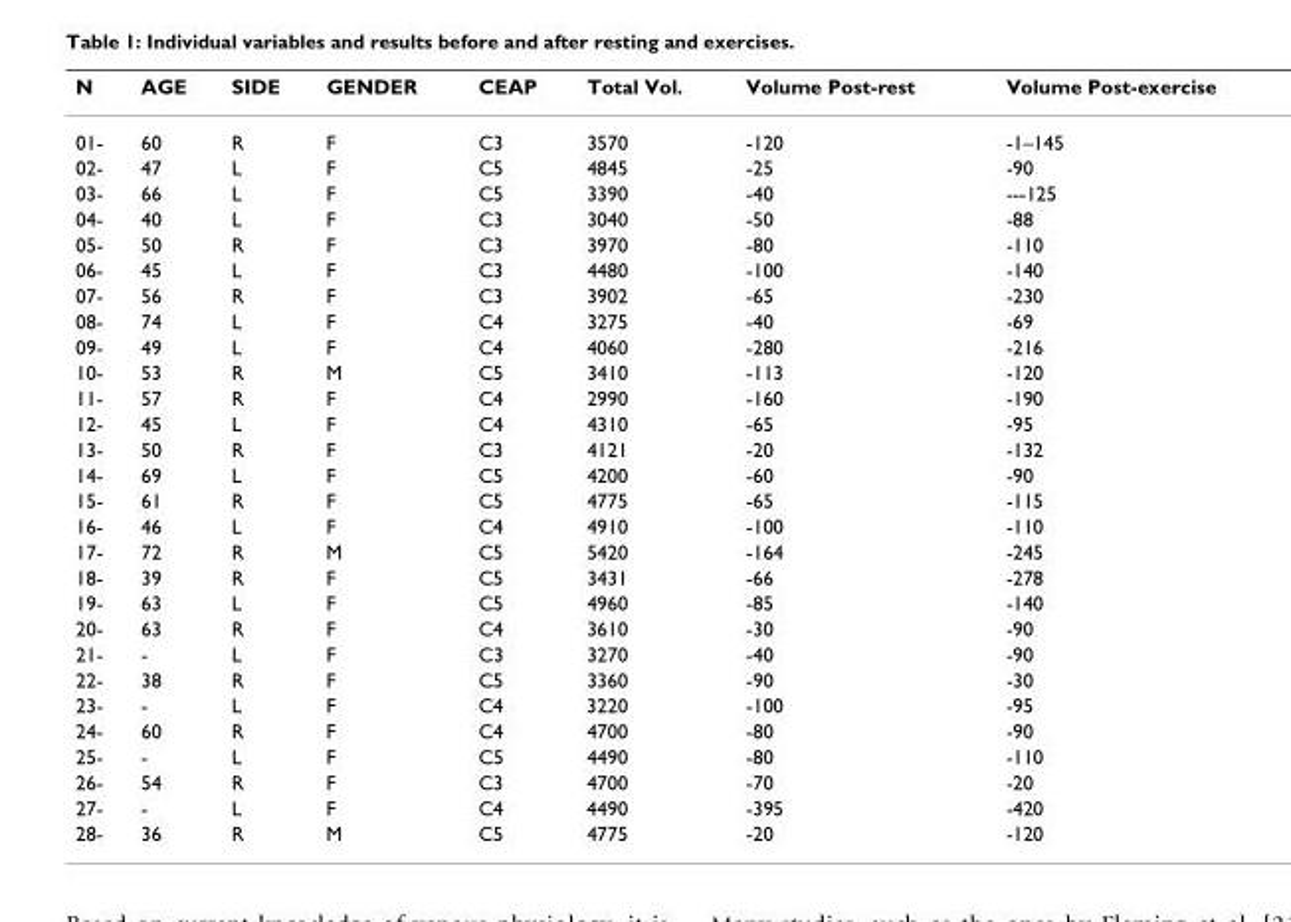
<table><thead><tr><td>N</td><td>AGE</td><td>SIDE</td><td>GENDER</td><td>CEAP</td><td>Total Vol.</td><td>Volume Post-rest</td><td>Volume Post-exercise</td></tr></thead><tbody><tr><td>01-</td><td>60</td><td>R</td><td>F</td><td>C3</td><td>3570</td><td>-120</td><td>-1–145</td></tr><tr><td>02-</td><td>47</td><td>L</td><td>F</td><td>C5</td><td>4845</td><td>-25</td><td>-90</td></tr><tr><td>03-</td><td>66</td><td>L</td><td>F</td><td>C5</td><td>3390</td><td>-40</td><td>---125</td></tr><tr><td>04-</td><td>40</td><td>L</td><td>F</td><td>C3</td><td>3040</td><td>-50</td><td>-88</td></tr><tr><td>05-</td><td>50</td><td>R</td><td>F</td><td>C3</td><td>3970</td><td>-80</td><td>-110</td></tr><tr><td>06-</td><td>45</td><td>L</td><td>F</td><td>C3</td><td>4480</td><td>-100</td><td>-140</td></tr><tr><td>07-</td><td>56</td><td>R</td><td>F</td><td>C3</td><td>3902</td><td>-65</td><td>-230</td></tr><tr><td>08-</td><td>74</td><td>L</td><td>F</td><td>C4</td><td>3275</td><td>-40</td><td>-69</td></tr><tr><td>09-</td><td>49</td><td>L</td><td>F</td><td>C4</td><td>4060</td><td>-280</td><td>-216</td></tr><tr><td>10-</td><td>53</td><td>R</td><td>M</td><td>C5</td><td>3410</td><td>-113</td><td>-120</td></tr><tr><td>11-</td><td>57</td><td>R</td><td>F</td><td>C4</td><td>2990</td><td>-160</td><td>-190</td></tr><tr><td>12-</td><td>45</td><td>L</td><td>F</td><td>C4</td><td>4310</td><td>-65</td><td>-95</td></tr><tr><td>13-</td><td>50</td><td>R</td><td>F</td><td>C3</td><td>4121</td><td>-20</td><td>-132</td></tr><tr><td>14-</td><td>69</td><td>L</td><td>F</td><td>C5</td><td>4200</td><td>-60</td><td>-90</td></tr><tr><td>15-</td><td>61</td><td>R</td><td>F</td><td>C5</td><td>4775</td><td>-65</td><td>-115</td></tr><tr><td>16-</td><td>46</td><td>L</td><td>F</td><td>C4</td><td>4910</td><td>-100</td><td>-110</td></tr><tr><td>17-</td><td>72</td><td>R</td><td>M</td><td>C5</td><td>5420</td><td>-164</td><td>-245</td></tr><tr><td>18-</td><td>39</td><td>R</td><td>F</td><td>C5</td><td>3431</td><td>-66</td><td>-278</td></tr><tr><td>19-</td><td>63</td><td>L</td><td>F</td><td>C5</td><td>4960</td><td>-85</td><td>-140</td></tr><tr><td>20-</td><td>63</td><td>R</td><td>F</td><td>C4</td><td>3610</td><td>-30</td><td>-90</td></tr><tr><td>21-</td><td>-</td><td>L</td><td>F</td><td>C3</td><td>3270</td><td>-40</td><td>-90</td></tr><tr><td>22-</td><td>38</td><td>R</td><td>F</td><td>C5</td><td>3360</td><td>-90</td><td>-30</td></tr><tr><td>23-</td><td>-</td><td>L</td><td>F</td><td>C4</td><td>3220</td><td>-100</td><td>-95</td></tr><tr><td>24-</td><td>60</td><td>R</td><td>F</td><td>C4</td><td>4700</td><td>-80</td><td>-90</td></tr><tr><td>25-</td><td>-</td><td>L</td><td>F</td><td>C5</td><td>4490</td><td>-80</td><td>-110</td></tr><tr><td>26-</td><td>54</td><td>R</td><td>F</td><td>C3</td><td>4700</td><td>-70</td><td>-20</td></tr><tr><td>27-</td><td>-</td><td>L</td><td>F</td><td>C4</td><td>4490</td><td>-395</td><td>-420</td></tr><tr><td>28-</td><td>36</td><td>R</td><td>M</td><td>C5</td><td>4775</td><td>-20</td><td>-120</td></tr></tbody></table>